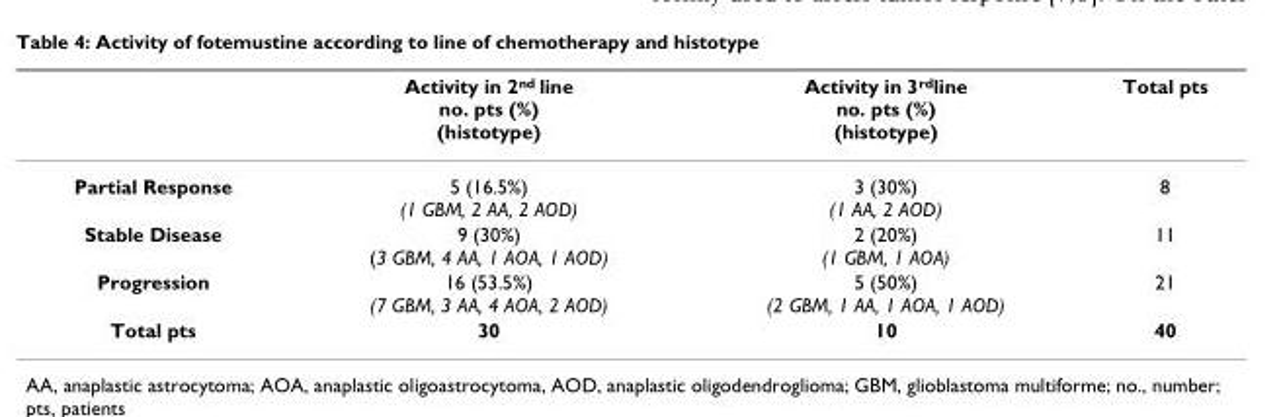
<table><thead><tr><td></td><td>Activity in 2<sup>nd</sup> line no. pts (%) (histotype)</td><td>Activity in 3<sup>rd</sup>line no. pts (%) (histotype)</td><td>Total pts</td></tr></thead><tbody><tr><td>Partial Response</td><td>5 (16.5%) (1 GBM, 2 AA, 2 AOD)</td><td>3 (30%) (1 AA, 2 AOD)</td><td>8</td></tr><tr><td>Stable Disease</td><td>9 (30%) (3 GBM, 4 AA, 1 AOA, 1 AOD)</td><td>2 (20%) (1 GBM, 1 AOA)</td><td>11</td></tr><tr><td>Progression</td><td>16 (53.5%) (7 GBM, 3 AA, 4 AOA, 2 AOD)</td><td>5 (50%) (2 GBM, 1 AA, 1 AOA, 1 AOD)</td><td>21</td></tr><tr><td>Total pts</td><td>30</td><td>10</td><td>40</td></tr></tbody></table>